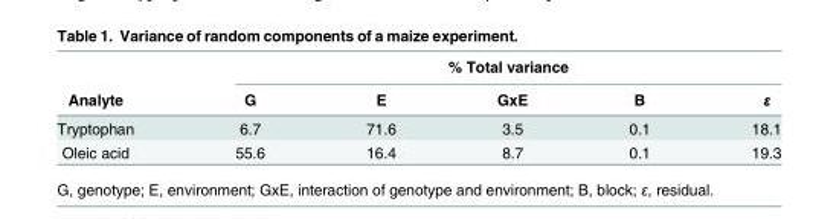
<table><thead><tr><td rowspan="2">Analyte</td><td colspan="5">% Total variance</td></tr><tr><td>G</td><td>E</td><td>GxE</td><td>B</td><td>ε</td></tr></thead><tbody><tr><td>Tryptophan</td><td>6.7</td><td>71.6</td><td>3.5</td><td>0.1</td><td>18.1</td></tr><tr><td>Oleic acid</td><td>55.6</td><td>16.4</td><td>8.7</td><td>0.1</td><td>19.3</td></tr></tbody></table>